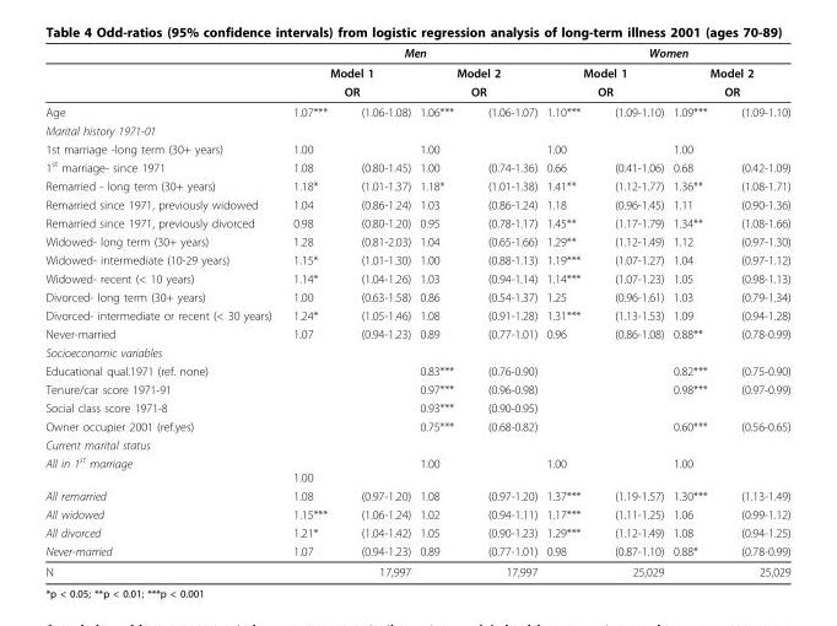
<table><thead><tr><td rowspan="4">Age</td><td colspan="4">Men</td><td colspan="4">Women</td></tr><tr><td rowspan="2" colspan="2">Model 1 OR</td><td rowspan="2" colspan="2">Model 2 OR</td><td rowspan="2" colspan="2">Model 1 OR</td><td rowspan="2" colspan="2">Model 2 OR</td></tr><tr></tr><tr><td>1.07***</td><td>(1.06-1.08)</td><td>1.06***</td><td>(1.06-1.07)</td><td>1.10***</td><td>(1.09-1.10)</td><td>1.09***</td><td>(1.09-1.10)</td></tr></thead><tbody><tr><td colspan="9">Marital history 1971-01</td></tr><tr><td>1st marriage -long term (30+ years)</td><td>1.00</td><td></td><td>1.00</td><td></td><td>1.00</td><td></td><td>1.00</td><td></td></tr><tr><td>1<sup>st</sup> marriage- since 1971</td><td>1.08</td><td>(0.80-1.45)</td><td>1.00</td><td>(0.74-1.36)</td><td>0.66</td><td>(0.41-1.06)</td><td>0.68</td><td>(0.42-1.09)</td></tr><tr><td>Remarried - long term (30+ years)</td><td>1.18*</td><td>(1.01-1.37)</td><td>1.18*</td><td>(1.01-1.38)</td><td>1.41**</td><td>(1.12-1.77)</td><td>1.36**</td><td>(1.08-1.71)</td></tr><tr><td>Remarried since 1971, previously widowed</td><td>1.04</td><td>(0.86-1.24)</td><td>1.03</td><td>(0.86-1.24)</td><td>1.18</td><td>(0.96-1.45)</td><td>1.11</td><td>(0.90-1.36)</td></tr><tr><td>Remarried since 1971, previously divorced</td><td>0.98</td><td>(0.80-1.20)</td><td>0.95</td><td>(0.78-1.17)</td><td>1.45**</td><td>(1.17-1.79)</td><td>1.34**</td><td>(1.08-1.66)</td></tr><tr><td>Widowed- long term (30+ years)</td><td>1.28</td><td>(0.81-2.03)</td><td>1.04</td><td>(0.65-1.66)</td><td>1.29**</td><td>(1.12-1.49)</td><td>1.12</td><td>(0.97-1.30)</td></tr><tr><td>Widowed- intermediate (10-29 years)</td><td>1.15*</td><td>(1.01-1.30)</td><td>1.00</td><td>(0.88-1.13)</td><td>1.19***</td><td>(1.07-1.27)</td><td>1.04</td><td>(0.97-1.12)</td></tr><tr><td>Widowed- recent (&lt; 10 years)</td><td>1.14*</td><td>(1.04-1.26)</td><td>1.03</td><td>(0.94-1.14)</td><td>1.14***</td><td>(1.07-1.23)</td><td>1.05</td><td>(0.98-1.13)</td></tr><tr><td>Divorced- long term (30+ years)</td><td>1.00</td><td>(0.63-1.58)</td><td>0.86</td><td>(0.54-1.37)</td><td>1.25</td><td>(0.96-1.61)</td><td>1.03</td><td>(0.79-1.34)</td></tr><tr><td>Divorced- intermediate or recent (&lt; 30 years)</td><td>1.24*</td><td>(1.05-1.46)</td><td>1.08</td><td>(0.91-1.28)</td><td>1.31***</td><td>(1.13-1.53)</td><td>1.09</td><td>(0.94-1.28)</td></tr><tr><td>Never-married</td><td>1.07</td><td>(0.94-1.23)</td><td>0.89</td><td>(0.77-1.01)</td><td>0.96</td><td>(0.86-1.08)</td><td>0.88**</td><td>(0.78-0.99)</td></tr><tr><td colspan="9">Socioeconomic variables</td></tr><tr><td>Educational qual.1971 (ref. none)</td><td></td><td></td><td>0.83***</td><td>(0.76-0.90)</td><td></td><td></td><td>0.82***</td><td>(0.75-0.90)</td></tr><tr><td>Tenure/car score 1971-91</td><td></td><td></td><td>0.97***</td><td>(0.96-0.98)</td><td></td><td></td><td>0.98***</td><td>(0.97-0.99)</td></tr><tr><td>Social class score 1971-8</td><td></td><td></td><td>0.93***</td><td>(0.90-0.95)</td><td></td><td></td><td></td><td></td></tr><tr><td>Owner occupier 2001 (ref.yes)</td><td></td><td></td><td>0.75***</td><td>(0.68-0.82)</td><td></td><td></td><td>0.60***</td><td>(0.56-0.65)</td></tr><tr><td colspan="9">Current marital status</td></tr><tr><td>All in 1<sup>st</sup> marriage</td><td>1.00</td><td></td><td>1.00</td><td></td><td>1.00</td><td></td><td>1.00</td><td></td></tr><tr><td>All remarried</td><td>1.08</td><td>(0.97-1.20)</td><td>1.08</td><td>(0.97-1.20)</td><td>1.37***</td><td>(1.19-1.57)</td><td>1.30***</td><td>(1.13-1.49)</td></tr><tr><td>All widowed</td><td>1.15***</td><td>(1.06-1.24)</td><td>1.02</td><td>(0.94-1.11)</td><td>1.17***</td><td>(1.11-1.25)</td><td>1.06</td><td>(0.99-1.12)</td></tr><tr><td>All divorced</td><td>1.21*</td><td>(1.04-1.42)</td><td>1.05</td><td>(0.90-1.23)</td><td>1.29***</td><td>(1.12-1.49)</td><td>1.08</td><td>(0.94-1.25)</td></tr><tr><td>Never-married</td><td>1.07</td><td>(0.94-1.23)</td><td>0.89</td><td>(0.77-1.01)</td><td>0.98</td><td>(0.87-1.10)</td><td>0.88*</td><td>(0.78-0.99)</td></tr><tr><td>N</td><td colspan="2">17,997</td><td colspan="2">17,997</td><td colspan="2">25,029</td><td colspan="2">25,029</td></tr></tbody></table>